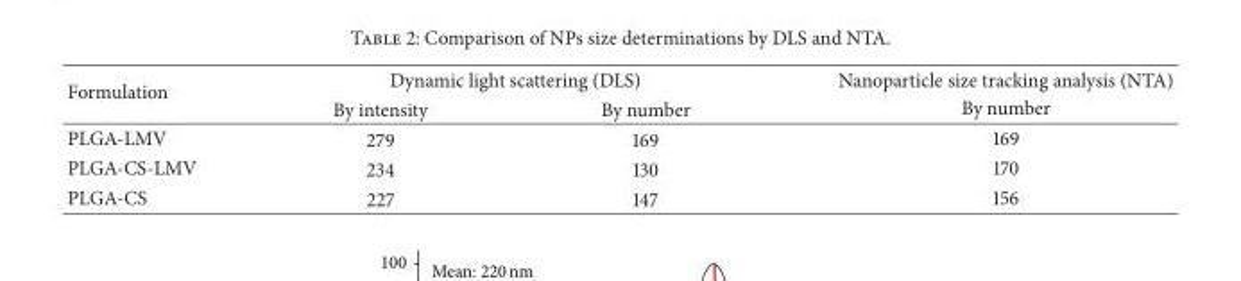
<table><thead><tr><td rowspan="2">Formulation</td><td colspan="2">Dynamic light scattering (DLS)</td><td rowspan="2">Nanoparticle size tracking analysis (NTA) By number</td></tr><tr><td>By intensity</td><td>By number</td></tr></thead><tbody><tr><td>PLGA-LMV</td><td>279</td><td>169</td><td>169</td></tr><tr><td>PLGA-CS-LMV</td><td>234</td><td>130</td><td>170</td></tr><tr><td>PLGA-CS</td><td>227</td><td>147</td><td>156</td></tr></tbody></table>